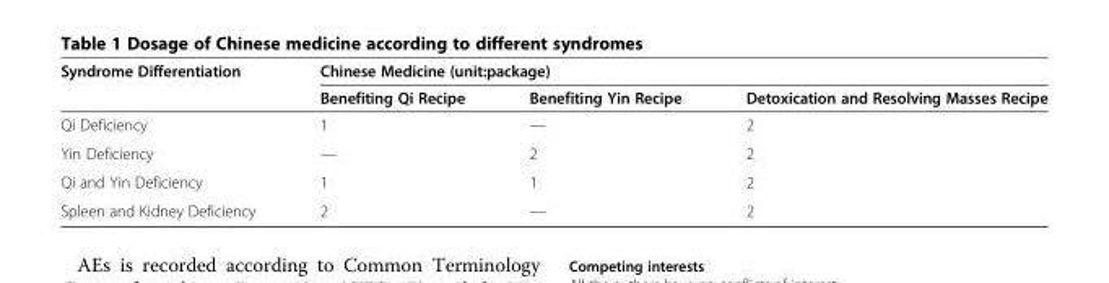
<table><thead><tr><td rowspan="2">Syndrome Differentiation</td><td colspan="3">Chinese Medicine (unit:package)</td></tr><tr><td>Benefiting Qi Recipe</td><td>Benefiting Yin Recipe</td><td>Detoxication and Resolving Masses Recipe</td></tr></thead><tbody><tr><td>Qi Deficiency</td><td>1</td><td>—</td><td>2</td></tr><tr><td>Yin Deficiency</td><td>—</td><td>2</td><td>2</td></tr><tr><td>Qi and Yin Deficiency</td><td>1</td><td>1</td><td>2</td></tr><tr><td>Spleen and Kidney Deficiency</td><td>2</td><td>—</td><td>2</td></tr></tbody></table>